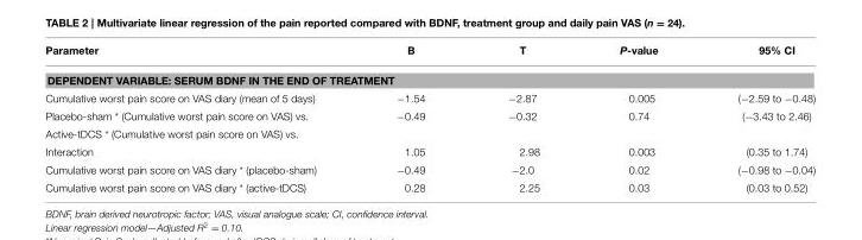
<table><thead><tr><td>Parameter</td><td>B</td><td>T</td><td>P-value</td><td>95% CI</td></tr></thead><tbody><tr><td colspan="5">DEPENDENT VARIABLE: SERUM BDNF IN THE END OF TREATMENT</td></tr><tr><td>Cumulative worst pain score on VAS diary (mean of 5 days)</td><td>−1.54</td><td>−2.87</td><td>0.005</td><td>(−2.59 to −0.48)</td></tr><tr><td>Placebo-sham * (Cumulative worst pain score on VAS) vs.</td><td>−0.49</td><td>−0.32</td><td>0.74</td><td>(−3.43 to 2.46)</td></tr><tr><td colspan="5">Active-tDCS * (Cumulative worst pain score on VAS) vs.</td></tr><tr><td>Interaction</td><td>1.05</td><td>2.98</td><td>0.003</td><td>(0.35 to 1.74)</td></tr><tr><td>Cumulative worst pain score on VAS diary * (placebo-sham)</td><td>−0.49</td><td>−2.0</td><td>0.02</td><td>(−0.98 to −0.04)</td></tr><tr><td>Cumulative worst pain score on VAS diary * (active-tDCS)</td><td>0.28</td><td>2.25</td><td>0.03</td><td>(0.03 to 0.52)</td></tr></tbody></table>